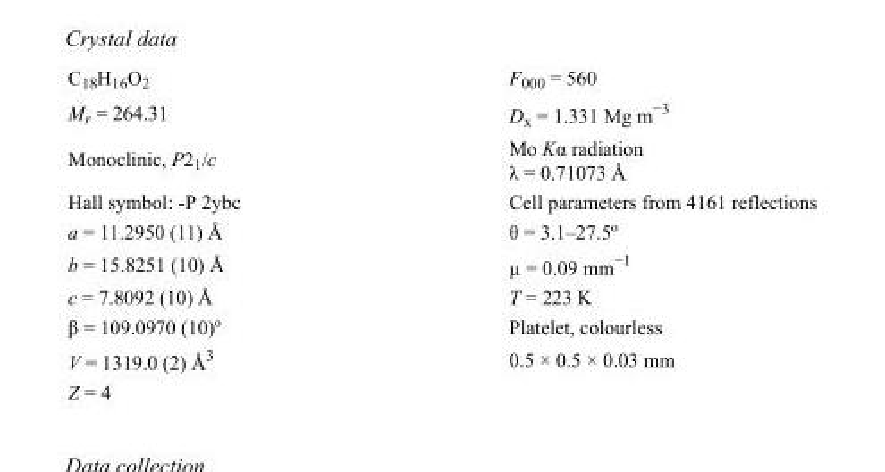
<table><tbody><tr><td>C<sub>18</sub>H<sub>16</sub>O<sub>2</sub></td><td>F<sub>000</sub> = 560</td></tr><tr><td>M<sub>r</sub> = 264.31</td><td>D<sub>x</sub> = 1.331 Mg m<sup>−3</sup></td></tr><tr><td>Monoclinic, P2<sub>1</sub>/c</td><td>Mo Kα radiation λ = 0.71073 Å</td></tr><tr><td>Hall symbol: -P 2ybc</td><td>Cell parameters from 4161 reflections</td></tr><tr><td>a = 11.2950 (11) Å</td><td>θ = 3.1–27.5º</td></tr><tr><td>b = 15.8251 (10) Å</td><td>µ = 0.09 mm<sup>−1</sup></td></tr><tr><td>c = 7.8092 (10) Å</td><td>T = 223 K</td></tr><tr><td>β = 109.0970 (10)º</td><td>Platelet, colourless</td></tr><tr><td>V = 1319.0 (2) Å<sup>3</sup></td><td>0.5 × 0.5 × 0.03 mm</td></tr><tr><td>Z = 4</td><td></td></tr></tbody></table>